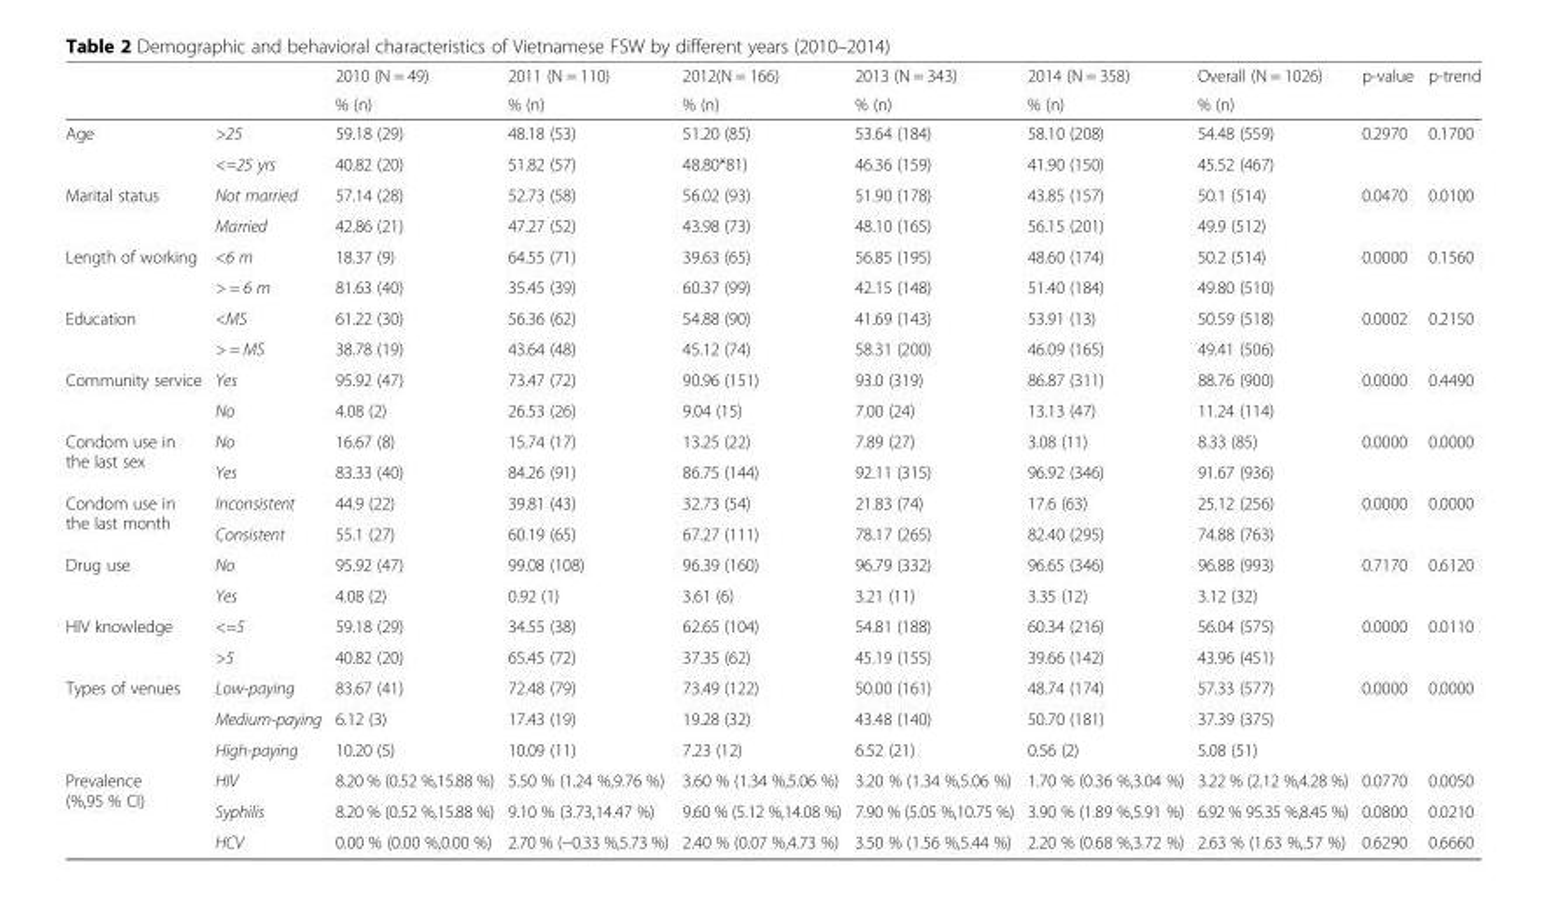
<table><thead><tr><td rowspan="2"></td><td rowspan="2"></td><td rowspan="2">2010 (N = 49) % (n)</td><td rowspan="2">2011 (N = 110) % (n)</td><td rowspan="2">2012(N = 166) % (n)</td><td rowspan="2">2013 (N = 343) % (n)</td><td rowspan="2">2014 (N = 358) % (n)</td><td rowspan="2">Overall (N = 1026) % (n)</td><td rowspan="2">p-value</td><td rowspan="2">p-trend</td></tr><tr></tr></thead><tbody><tr><td rowspan="2">Age</td><td>&gt;25</td><td>59.18 (29)</td><td>48.18 (53)</td><td>51.20 (85)</td><td>53.64 (184)</td><td>58.10 (208)</td><td>54.48 (559)</td><td rowspan="2">0.2970</td><td rowspan="2">0.1700</td></tr><tr><td>&lt;=25 yrs</td><td>40.82 (20)</td><td>51.82 (57)</td><td>48.80*81)</td><td>46.36 (159)</td><td>41.90 (150)</td><td>45.52 (467)</td></tr><tr><td rowspan="2">Marital status</td><td>Not married</td><td>57.14 (28)</td><td>52.73 (58)</td><td>56.02 (93)</td><td>51.90 (178)</td><td>43.85 (157)</td><td>50.1 (514)</td><td rowspan="2">0.0470</td><td rowspan="2">0.0100</td></tr><tr><td>Married</td><td>42.86 (21)</td><td>47.27 (52)</td><td>43.98 (73)</td><td>48.10 (165)</td><td>56.15 (201)</td><td>49.9 (512)</td></tr><tr><td rowspan="2">Length of working</td><td>&lt;6 m</td><td>18.37 (9)</td><td>64.55 (71)</td><td>39.63 (65)</td><td>56.85 (195)</td><td>48.60 (174)</td><td>50.2 (514)</td><td rowspan="2">0.0000</td><td rowspan="2">0.1560</td></tr><tr><td>&gt; = 6 m</td><td>81.63 (40)</td><td>35.45 (39)</td><td>60.37 (99)</td><td>42.15 (148)</td><td>51.40 (184)</td><td>49.80 (510)</td></tr><tr><td rowspan="2">Education</td><td>&lt;MS</td><td>61.22 (30)</td><td>56.36 (62)</td><td>54.88 (90)</td><td>41.69 (143)</td><td>53.91 (13)</td><td>50.59 (518)</td><td rowspan="2">0.0002</td><td rowspan="2">0.2150</td></tr><tr><td>&gt; = MS</td><td>38.78 (19)</td><td>43.64 (48)</td><td>45.12 (74)</td><td>58.31 (200)</td><td>46.09 (165)</td><td>49.41 (506)</td></tr><tr><td rowspan="2">Community service</td><td>Yes</td><td>95.92 (47)</td><td>73.47 (72)</td><td>90.96 (151)</td><td>93.0 (319)</td><td>86.87 (311)</td><td>88.76 (900)</td><td rowspan="2">0.0000</td><td rowspan="2">0.4490</td></tr><tr><td>No</td><td>4.08 (2)</td><td>26.53 (26)</td><td>9.04 (15)</td><td>7.00 (24)</td><td>13.13 (47)</td><td>11.24 (114)</td></tr><tr><td rowspan="2">Condom use in the last sex</td><td>No</td><td>16.67 (8)</td><td>15.74 (17)</td><td>13.25 (22)</td><td>7.89 (27)</td><td>3.08 (11)</td><td>8.33 (85)</td><td rowspan="2">0.0000</td><td rowspan="2">0.0000</td></tr><tr><td>Yes</td><td>83.33 (40)</td><td>84.26 (91)</td><td>86.75 (144)</td><td>92.11 (315)</td><td>96.92 (346)</td><td>91.67 (936)</td></tr><tr><td rowspan="2">Condom use in the last month</td><td>Inconsistent</td><td>44.9 (22)</td><td>39.81 (43)</td><td>32.73 (54)</td><td>21.83 (74)</td><td>17.6 (63)</td><td>25.12 (256)</td><td rowspan="2">0.0000</td><td rowspan="2">0.0000</td></tr><tr><td>Consistent</td><td>55.1 (27)</td><td>60.19 (65)</td><td>67.27 (111)</td><td>78.17 (265)</td><td>82.40 (295)</td><td>74.88 (763)</td></tr><tr><td rowspan="2">Drug use</td><td>No</td><td>95.92 (47)</td><td>99.08 (108)</td><td>96.39 (160)</td><td>96.79 (332)</td><td>96.65 (346)</td><td>96.88 (993)</td><td rowspan="2">0.7170</td><td rowspan="2">0.6120</td></tr><tr><td>Yes</td><td>4.08 (2)</td><td>0.92 (1)</td><td>3.61 (6)</td><td>3.21 (11)</td><td>3.35 (12)</td><td>3.12 (32)</td></tr><tr><td rowspan="2">HIV knowledge</td><td>&lt;=5</td><td>59.18 (29)</td><td>34.55 (38)</td><td>62.65 (104)</td><td>54.81 (188)</td><td>60.34 (216)</td><td>56.04 (575)</td><td rowspan="2">0.0000</td><td rowspan="2">0.0110</td></tr><tr><td>&gt;5</td><td>40.82 (20)</td><td>65.45 (72)</td><td>37.35 (62)</td><td>45.19 (155)</td><td>39.66 (142)</td><td>43.96 (451)</td></tr><tr><td rowspan="3">Types of venues</td><td>Low-paying</td><td>83.67 (41)</td><td>72.48 (79)</td><td>73.49 (122)</td><td>50.00 (161)</td><td>48.74 (174)</td><td>57.33 (577)</td><td rowspan="3">0.0000</td><td rowspan="3">0.0000</td></tr><tr><td>Medium-paying</td><td>6.12 (3)</td><td>17.43 (19)</td><td>19.28 (32)</td><td>43.48 (140)</td><td>50.70 (181)</td><td>37.39 (375)</td></tr><tr><td>High-paying</td><td>10.20 (5)</td><td>10.09 (11)</td><td>7.23 (12)</td><td>6.52 (21)</td><td>0.56 (2)</td><td>5.08 (51)</td></tr><tr><td rowspan="3">Prevalence (%,95 % CI)</td><td>HIV</td><td>8.20 % (0.52 %,15.88 %)</td><td>5.50 % (1.24 %,9.76 %)</td><td>3.60 % (1.34 %,5.06 %)</td><td>3.20 % (1.34 %,5.06 %)</td><td>1.70 % (0.36 %,3.04 %)</td><td>3.22 % (2.12 %,4.28 %)</td><td>0.0770</td><td>0.0050</td></tr><tr><td>Syphilis</td><td>8.20 % (0.52 %,15.88 %)</td><td>9.10 % (3.73,14.47 %)</td><td>9.60 % (5.12 %,14.08 %)</td><td>7.90 % (5.05 %,10.75 %)</td><td>3.90 % (1.89 %,5.91 %)</td><td>6.92 % 95.35 %,8.45 %)</td><td>0.0800</td><td>0.0210</td></tr><tr><td>HCV</td><td>0.00 % (0.00 %,0.00 %)</td><td>2.70 % (−0.33 %,5.73 %)</td><td>2.40 % (0.07 %,4.73 %)</td><td>3.50 % (1.56 %,5.44 %)</td><td>2.20 % (0.68 %,3.72 %)</td><td>2.63 % (1.63 %,.57 %)</td><td>0.6290</td><td>0.6660</td></tr></tbody></table>